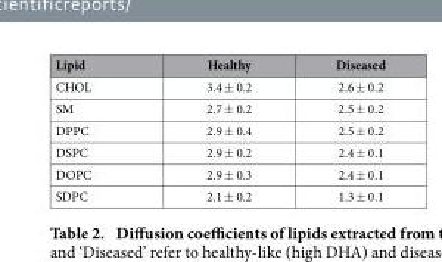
<table><thead><tr><td>Lipid</td><td>Healthy</td><td>Diseased</td></tr></thead><tbody><tr><td>CHOL</td><td>3.4 ± 0.2</td><td>2.6 ± 0.2</td></tr><tr><td>SM</td><td>2.7 ± 0.2</td><td>2.5 ± 0.2</td></tr><tr><td>DPPC</td><td>2.9 ± 0.4</td><td>2.5 ± 0.2</td></tr><tr><td>DSPC</td><td>2.9 ± 0.2</td><td>2.4 ± 0.1</td></tr><tr><td>DOPC</td><td>2.9 ± 0.3</td><td>2.4 ± 0.1</td></tr><tr><td>SDPC</td><td>2.1 ± 0.2</td><td>1.3 ± 0.1</td></tr></tbody></table>